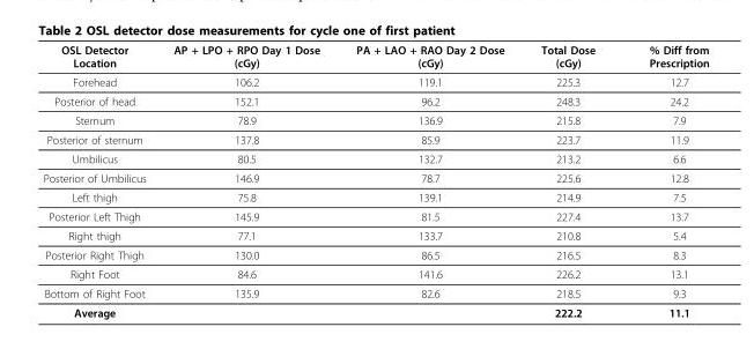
<table><thead><tr><td>OSL Detector Location</td><td>AP + LPO + RPO Day 1 Dose (cGy)</td><td>PA + LAO + RAO Day 2 Dose (cGy)</td><td>Total Dose (cGy)</td><td>% Diff from Prescription</td></tr></thead><tbody><tr><td>Forehead</td><td>106.2</td><td>119.1</td><td>225.3</td><td>12.7</td></tr><tr><td>Posterior of head</td><td>152.1</td><td>96.2</td><td>248.3</td><td>24.2</td></tr><tr><td>Sternum</td><td>78.9</td><td>136.9</td><td>215.8</td><td>7.9</td></tr><tr><td>Posterior of sternum</td><td>137.8</td><td>85.9</td><td>223.7</td><td>11.9</td></tr><tr><td>Umbilicus</td><td>80.5</td><td>132.7</td><td>213.2</td><td>6.6</td></tr><tr><td>Posterior of Umbilicus</td><td>146.9</td><td>78.7</td><td>225.6</td><td>12.8</td></tr><tr><td>Left thigh</td><td>75.8</td><td>139.1</td><td>214.9</td><td>7.5</td></tr><tr><td>Posterior Left Thigh</td><td>145.9</td><td>81.5</td><td>227.4</td><td>13.7</td></tr><tr><td>Right thigh</td><td>77.1</td><td>133.7</td><td>210.8</td><td>5.4</td></tr><tr><td>Posterior Right Thigh</td><td>130.0</td><td>86.5</td><td>216.5</td><td>8.3</td></tr><tr><td>Right Foot</td><td>84.6</td><td>141.6</td><td>226.2</td><td>13.1</td></tr><tr><td>Bottom of Right Foot</td><td>135.9</td><td>82.6</td><td>218.5</td><td>9.3</td></tr><tr><td>Average</td><td></td><td></td><td>222.2</td><td>11.1</td></tr></tbody></table>